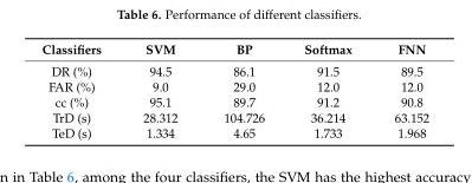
<table><thead><tr><td>Classifiers</td><td>SVM</td><td>BP</td><td>Softmax</td><td>FNN</td></tr></thead><tbody><tr><td>DR (%)</td><td>94.5</td><td>86.1</td><td>91.5</td><td>89.5</td></tr><tr><td>FAR (%)</td><td>9.0</td><td>29.0</td><td>12.0</td><td>12.0</td></tr><tr><td>cc (%)</td><td>95.1</td><td>89.7</td><td>91.2</td><td>90.8</td></tr><tr><td>TrD (s)</td><td>28.312</td><td>104.726</td><td>36.214</td><td>63.152</td></tr><tr><td>TeD (s)</td><td>1.334</td><td>4.65</td><td>1.733</td><td>1.968</td></tr></tbody></table>